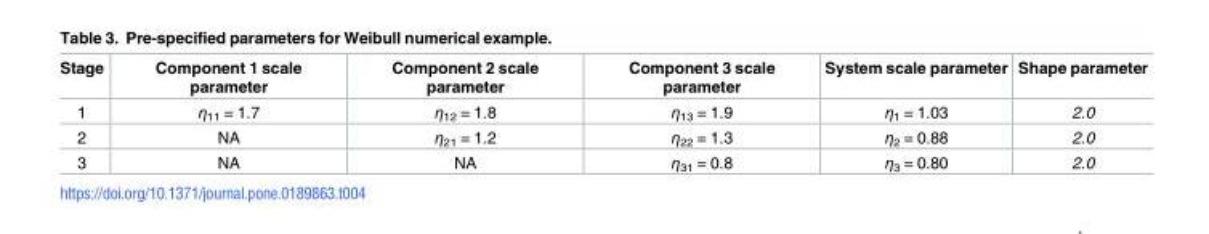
<table><thead><tr><td>Stage</td><td>Component 1 scale parameter</td><td>Component 2 scale parameter</td><td>Component 3 scale parameter</td><td>System scale parameter</td><td>Shape parameter</td></tr></thead><tbody><tr><td>1</td><td>η<sub>11</sub> = 1.7</td><td>η<sub>12</sub> = 1.8</td><td>η<sub>13</sub> = 1.9</td><td>η<sub>1</sub> = 1.03</td><td>2.0</td></tr><tr><td>2</td><td>NA</td><td>η<sub>21</sub> = 1.2</td><td>η<sub>22</sub> = 1.3</td><td>η<sub>2</sub> = 0.88</td><td>2.0</td></tr><tr><td>3</td><td>NA</td><td>NA</td><td>η<sub>31</sub> = 0.8</td><td>η<sub>3</sub> = 0.80</td><td>2.0</td></tr></tbody></table>